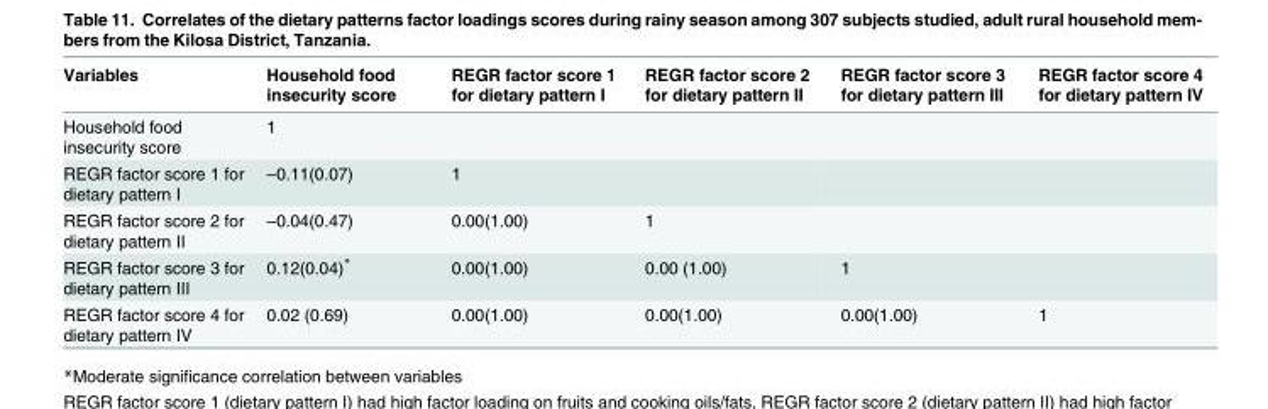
<table><thead><tr><td>Variables</td><td>Household food insecurity score</td><td>REGR factor score 1 for dietary pattern I</td><td>REGR factor score 2 for dietary pattern II</td><td>REGR factor score 3 for dietary pattern III</td><td>REGR factor score 4 for dietary pattern IV</td></tr></thead><tbody><tr><td>Household food insecurity score</td><td>1</td><td></td><td></td><td></td><td></td></tr><tr><td>REGR factor score 1 for dietary pattern I</td><td>–0.11(0.07)</td><td>1</td><td></td><td></td><td></td></tr><tr><td>REGR factor score 2 for dietary pattern II</td><td>–0.04(0.47)</td><td>0.00(1.00)</td><td>1</td><td></td><td></td></tr><tr><td>REGR factor score 3 for dietary pattern III</td><td>0.12(0.04)*</td><td>0.00(1.00)</td><td>0.00 (1.00)</td><td>1</td><td></td></tr><tr><td>REGR factor score 4 for dietary pattern IV</td><td>0.02 (0.69)</td><td>0.00(1.00)</td><td>0.00(1.00)</td><td>0.00(1.00)</td><td>1</td></tr></tbody></table>